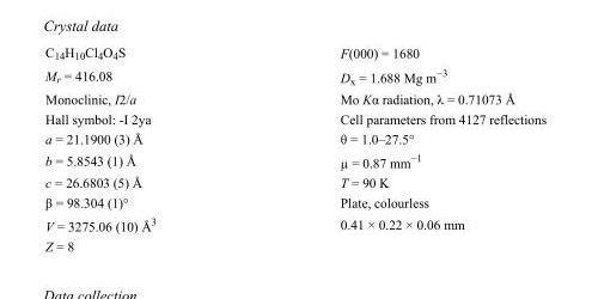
<table><tbody><tr><td>C<sub>14</sub>H<sub>10</sub>Cl<sub>4</sub>O<sub>4</sub>S</td><td>F(000) = 1680</td></tr><tr><td>M<sub>r</sub> = 416.08</td><td>D<sub>x</sub> = 1.688 Mg m<sup>−3</sup></td></tr><tr><td>Monoclinic, I2/a</td><td>Mo Kα radiation, λ = 0.71073 Å</td></tr><tr><td>Hall symbol: -I 2ya</td><td>Cell parameters from 4127 reflections</td></tr><tr><td>a = 21.1900 (3) Å</td><td>θ = 1.0–27.5°</td></tr><tr><td>b = 5.8543 (1) Å</td><td>µ = 0.87 mm<sup>−1</sup></td></tr><tr><td>c = 26.6803 (5) Å</td><td>T = 90 K</td></tr><tr><td>β = 98.304 (1)°</td><td>Plate, colourless</td></tr><tr><td>V = 3275.06 (10) Å<sup>3</sup></td><td>0.41 × 0.22 × 0.06 mm</td></tr><tr><td>Z = 8</td><td></td></tr></tbody></table>